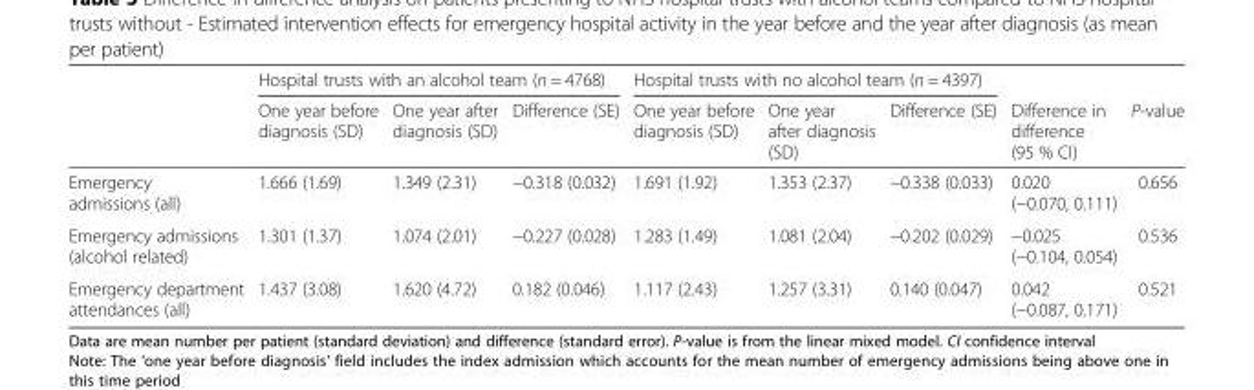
<table><thead><tr><td rowspan="2"></td><td colspan="3">Hospital trusts with an alcohol team (n = 4768)</td><td colspan="3">Hospital trusts with no alcohol team (n = 4397)</td><td rowspan="2">Difference in difference (95 % CI)</td><td rowspan="2">P-value</td></tr><tr><td>One year before diagnosis (SD)</td><td>One year after diagnosis (SD)</td><td>Difference (SE)</td><td>One year before diagnosis (SD)</td><td>One year after diagnosis (SD)</td><td>Difference (SE)</td></tr></thead><tbody><tr><td>Emergency admissions (all)</td><td>1.666 (1.69)</td><td>1.349 (2.31)</td><td>−0.318 (0.032)</td><td>1.691 (1.92)</td><td>1.353 (2.37)</td><td>−0.338 (0.033)</td><td>0.020 (−0.070, 0.111)</td><td>0.656</td></tr><tr><td>Emergency admissions (alcohol related)</td><td>1.301 (1.37)</td><td>1.074 (2.01)</td><td>−0.227 (0.028)</td><td>1.283 (1.49)</td><td>1.081 (2.04)</td><td>−0.202 (0.029)</td><td>−0.025 (−0.104, 0.054)</td><td>0.536</td></tr><tr><td>Emergency department attendances (all)</td><td>1.437 (3.08)</td><td>1.620 (4.72)</td><td>0.182 (0.046)</td><td>1.117 (2.43)</td><td>1.257 (3.31)</td><td>0.140 (0.047)</td><td>0.042 (−0.087, 0.171)</td><td>0.521</td></tr></tbody></table>